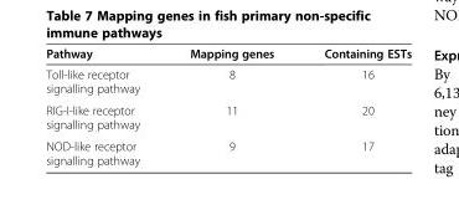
<table><thead><tr><td>Pathway</td><td>Mapping genes</td><td>Containing ESTs</td></tr></thead><tbody><tr><td>Toll-like receptor signalling pathway</td><td>8</td><td>16</td></tr><tr><td>RIG-I-like receptor signalling pathway</td><td>11</td><td>20</td></tr><tr><td>NOD-like receptor signalling pathway</td><td>9</td><td>17</td></tr></tbody></table>